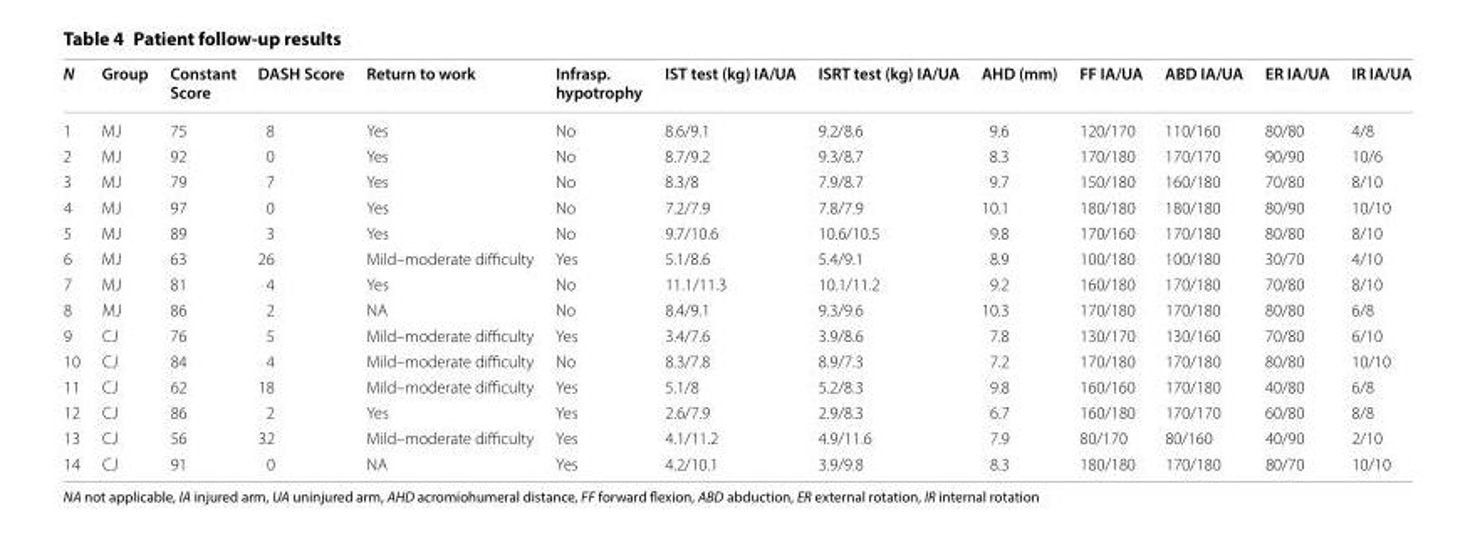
<table><thead><tr><td>N</td><td>Group</td><td>Constant Score</td><td>DASH Score</td><td>Return to work</td><td>Infrasp. hypotrophy</td><td>IST test (kg) IA/UA</td><td>ISRT test (kg) IA/UA</td><td>AHD (mm)</td><td>FF IA/UA</td><td>ABD IA/UA</td><td>ER IA/UA</td><td>IR IA/UA</td></tr></thead><tbody><tr><td>1</td><td>MJ</td><td>75</td><td>8</td><td>Yes</td><td>No</td><td>8.6/9.1</td><td>9.2/8.6</td><td>9.6</td><td>120/170</td><td>110/160</td><td>80/80</td><td>4/8</td></tr><tr><td>2</td><td>MJ</td><td>92</td><td>0</td><td>Yes</td><td>No</td><td>8.7/9.2</td><td>9.3/8.7</td><td>8.3</td><td>170/180</td><td>170/170</td><td>90/90</td><td>10/6</td></tr><tr><td>3</td><td>MJ</td><td>79</td><td>7</td><td>Yes</td><td>No</td><td>8.3/8</td><td>7.9/8.7</td><td>9.7</td><td>150/180</td><td>160/180</td><td>70/80</td><td>8/10</td></tr><tr><td>4</td><td>MJ</td><td>97</td><td>0</td><td>Yes</td><td>No</td><td>7.2/7.9</td><td>7.8/7.9</td><td>10.1</td><td>180/180</td><td>180/180</td><td>80/90</td><td>10/10</td></tr><tr><td>5</td><td>MJ</td><td>89</td><td>3</td><td>Yes</td><td>No</td><td>9.7/10.6</td><td>10.6/10.5</td><td>9.8</td><td>170/160</td><td>170/180</td><td>80/80</td><td>8/10</td></tr><tr><td>6</td><td>MJ</td><td>63</td><td>26</td><td>Mild–moderate difficulty</td><td>Yes</td><td>5.1/8.6</td><td>5.4/9.1</td><td>8.9</td><td>100/180</td><td>100/180</td><td>30/70</td><td>4/10</td></tr><tr><td>7</td><td>MJ</td><td>81</td><td>4</td><td>Yes</td><td>No</td><td>11.1/11.3</td><td>10.1/11.2</td><td>9.2</td><td>160/180</td><td>170/180</td><td>70/80</td><td>8/10</td></tr><tr><td>8</td><td>MJ</td><td>86</td><td>2</td><td>NA</td><td>No</td><td>8.4/9.1</td><td>9.3/9.6</td><td>10.3</td><td>170/180</td><td>170/180</td><td>80/80</td><td>6/8</td></tr><tr><td>9</td><td>CJ</td><td>76</td><td>5</td><td>Mild–moderate difficulty</td><td>Yes</td><td>3.4/7.6</td><td>3.9/8.6</td><td>7.8</td><td>130/170</td><td>130/160</td><td>70/80</td><td>6/10</td></tr><tr><td>10</td><td>CJ</td><td>84</td><td>4</td><td>Mild–moderate difficulty</td><td>No</td><td>8.3/7.8</td><td>8.9/7.3</td><td>7.2</td><td>170/180</td><td>170/180</td><td>80/80</td><td>10/10</td></tr><tr><td>11</td><td>CJ</td><td>62</td><td>18</td><td>Mild–moderate difficulty</td><td>Yes</td><td>5.1/8</td><td>5.2/8.3</td><td>9.8</td><td>160/160</td><td>170/180</td><td>40/80</td><td>6/8</td></tr><tr><td>12</td><td>CJ</td><td>86</td><td>2</td><td>Yes</td><td>Yes</td><td>2.6/7.9</td><td>2.9/8.3</td><td>6.7</td><td>160/180</td><td>170/170</td><td>60/80</td><td>8/8</td></tr><tr><td>13</td><td>CJ</td><td>56</td><td>32</td><td>Mild–moderate difficulty</td><td>Yes</td><td>4.1/11.2</td><td>4.9/11.6</td><td>7.9</td><td>80/170</td><td>80/160</td><td>40/90</td><td>2/10</td></tr><tr><td>14</td><td>CJ</td><td>91</td><td>0</td><td>NA</td><td>Yes</td><td>4.2/10.1</td><td>3.9/9.8</td><td>8.3</td><td>180/180</td><td>170/180</td><td>80/70</td><td>10/10</td></tr></tbody></table>